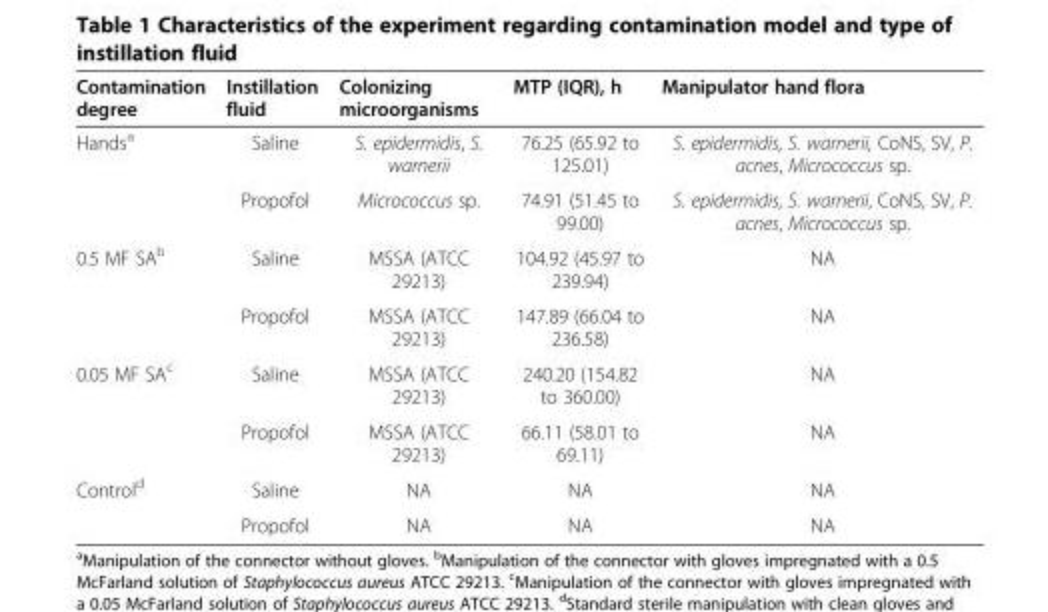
<table><thead><tr><td>Contamination degree</td><td>Instillation fluid</td><td>Colonizing microorganisms</td><td>MTP (IQR), h</td><td>Manipulator hand flora</td></tr></thead><tbody><tr><td rowspan="2">Hands<sup>a</sup></td><td>Saline</td><td>S. epidermidis, S. warnerii</td><td>76.25 (65.92 to 125.01)</td><td>S. epidermidis, S. warnerii, CoNS, SV, P. acnes, Micrococcus sp.</td></tr><tr><td>Propofol</td><td>Micrococcus sp.</td><td>74.91 (51.45 to 99.00)</td><td>S. epidermidis, S. warnerii, CoNS, SV, P. acnes, Micrococcus sp.</td></tr><tr><td rowspan="2">0.5 MF SA<sup>b</sup></td><td>Saline</td><td>MSSA (ATCC 29213)</td><td>104.92 (45.97 to 239.94)</td><td>NA</td></tr><tr><td>Propofol</td><td>MSSA (ATCC 29213)</td><td>147.89 (66.04 to 236.58)</td><td>NA</td></tr><tr><td rowspan="2">0.05 MF SA<sup>c</sup></td><td>Saline</td><td>MSSA (ATCC 29213)</td><td>240.20 (154.82 to 360.00)</td><td>NA</td></tr><tr><td>Propofol</td><td>MSSA (ATCC 29213)</td><td>66.11 (58.01 to 69.11)</td><td>NA</td></tr><tr><td rowspan="2">Control<sup>d</sup></td><td>Saline</td><td>NA</td><td>NA</td><td>NA</td></tr><tr><td>Propofol</td><td>NA</td><td>NA</td><td>NA</td></tr></tbody></table>